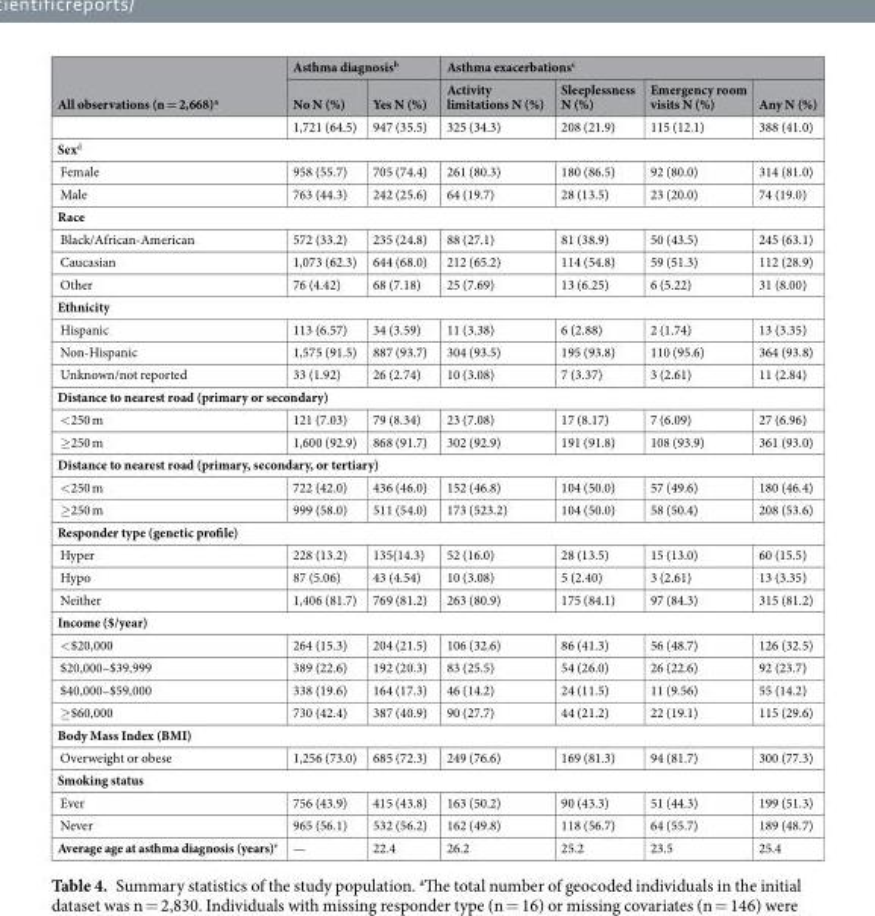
<table><thead><tr><td rowspan="2">All observations (n = 2,668)<sup>a</sup></td><td colspan="2">Asthma diagnosis<sup>b</sup></td><td colspan="4">Asthma exacerbations<sup>c</sup></td></tr><tr><td>No N (%)</td><td>Yes N (%)</td><td>Activity limitations N (%)</td><td>Sleeplessness N (%)</td><td>Emergency room visits N (%)</td><td>Any N (%)</td></tr></thead><tbody><tr><td></td><td>1,721 (64.5)</td><td>947 (35.5)</td><td>325 (34.3)</td><td>208 (21.9)</td><td>115 (12.1)</td><td>388 (41.0)</td></tr><tr><td colspan="7">Sex<sup>d</sup></td></tr><tr><td>Female</td><td>958 (55.7)</td><td>705 (74.4)</td><td>261 (80.3)</td><td>180 (86.5)</td><td>92 (80.0)</td><td>314 (81.0)</td></tr><tr><td>Male</td><td>763 (44.3)</td><td>242 (25.6)</td><td>64 (19.7)</td><td>28 (13.5)</td><td>23 (20.0)</td><td>74 (19.0)</td></tr><tr><td colspan="7">Race</td></tr><tr><td>Black/African-American</td><td>572 (33.2)</td><td>235 (24.8)</td><td>88 (27.1)</td><td>81 (38.9)</td><td>50 (43.5)</td><td>245 (63.1)</td></tr><tr><td>Caucasian</td><td>1,073 (62.3)</td><td>644 (68.0)</td><td>212 (65.2)</td><td>114 (54.8)</td><td>59 (51.3)</td><td>112 (28.9)</td></tr><tr><td>Other</td><td>76 (4.42)</td><td>68 (7.18)</td><td>25 (7.69)</td><td>13 (6.25)</td><td>6 (5.22)</td><td>31 (8.00)</td></tr><tr><td colspan="7">Ethnicity</td></tr><tr><td>Hispanic</td><td>113 (6.57)</td><td>34 (3.59)</td><td>11 (3.38)</td><td>6 (2.88)</td><td>2 (1.74)</td><td>13 (3.35)</td></tr><tr><td>Non-Hispanic</td><td>1,575 (91.5)</td><td>887 (93.7)</td><td>304 (93.5)</td><td>195 (93.8)</td><td>110 (95.6)</td><td>364 (93.8)</td></tr><tr><td>Unknown/not reported</td><td>33 (1.92)</td><td>26 (2.74)</td><td>10 (3.08)</td><td>7 (3.37)</td><td>3 (2.61)</td><td>11 (2.84)</td></tr><tr><td colspan="7">Distance to nearest road (primary or secondary)</td></tr><tr><td>&lt;250 m</td><td>121 (7.03)</td><td>79 (8.34)</td><td>23 (7.08)</td><td>17 (8.17)</td><td>7 (6.09)</td><td>27 (6.96)</td></tr><tr><td>≥250 m</td><td>1,600 (92.9)</td><td>868 (91.7)</td><td>302 (92.9)</td><td>191 (91.8)</td><td>108 (93.9)</td><td>361 (93.0)</td></tr><tr><td colspan="7">Distance to nearest road (primary, secondary, or tertiary)</td></tr><tr><td>&lt;250 m</td><td>722 (42.0)</td><td>436 (46.0)</td><td>152 (46.8)</td><td>104 (50.0)</td><td>57 (49.6)</td><td>180 (46.4)</td></tr><tr><td>≥250 m</td><td>999 (58.0)</td><td>511 (54.0)</td><td>173 (523.2)</td><td>104 (50.0)</td><td>58 (50.4)</td><td>208 (53.6)</td></tr><tr><td colspan="7">Responder type (genetic profile)</td></tr><tr><td>Hyper</td><td>228 (13.2)</td><td>135(14.3)</td><td>52 (16.0)</td><td>28 (13.5)</td><td>15 (13.0)</td><td>60 (15.5)</td></tr><tr><td>Hypo</td><td>87 (5.06)</td><td>43 (4.54)</td><td>10 (3.08)</td><td>5 (2.40)</td><td>3 (2.61)</td><td>13 (3.35)</td></tr><tr><td>Neither</td><td>1,406 (81.7)</td><td>769 (81.2)</td><td>263 (80.9)</td><td>175 (84.1)</td><td>97 (84.3)</td><td>315 (81.2)</td></tr><tr><td colspan="7">Income ($/year)</td></tr><tr><td>&lt;$20,000</td><td>264 (15.3)</td><td>204 (21.5)</td><td>106 (32.6)</td><td>86 (41.3)</td><td>56 (48.7)</td><td>126 (32.5)</td></tr><tr><td>$20,000–$39,999</td><td>389 (22.6)</td><td>192 (20.3)</td><td>83 (25.5)</td><td>54 (26.0)</td><td>26 (22.6)</td><td>92 (23.7)</td></tr><tr><td>$40,000–$59,000</td><td>338 (19.6)</td><td>164 (17.3)</td><td>46 (14.2)</td><td>24 (11.5)</td><td>11 (9.56)</td><td>55 (14.2)</td></tr><tr><td>≥$60,000</td><td>730 (42.4)</td><td>387 (40.9)</td><td>90 (27.7)</td><td>44 (21.2)</td><td>22 (19.1)</td><td>115 (29.6)</td></tr><tr><td colspan="7">Body Mass Index (BMI)</td></tr><tr><td>Overweight or obese</td><td>1,256 (73.0)</td><td>685 (72.3)</td><td>249 (76.6)</td><td>169 (81.3)</td><td>94 (81.7)</td><td>300 (77.3)</td></tr><tr><td colspan="7">Smoking status</td></tr><tr><td>Ever</td><td>756 (43.9)</td><td>415 (43.8)</td><td>163 (50.2)</td><td>90 (43.3)</td><td>51 (44.3)</td><td>199 (51.3)</td></tr><tr><td>Never</td><td>965 (56.1)</td><td>532 (56.2)</td><td>162 (49.8)</td><td>118 (56.7)</td><td>64 (55.7)</td><td>189 (48.7)</td></tr><tr><td>Average age at asthma diagnosis (years)<sup>e</sup></td><td>—</td><td>22.4</td><td>26.2</td><td>25.2</td><td>23.5</td><td>25.4</td></tr></tbody></table>